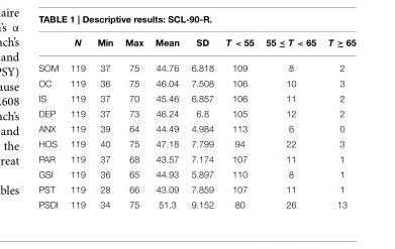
<table><thead><tr><td></td><td>N</td><td>Min</td><td>Max</td><td>Mean</td><td>SD</td><td>T &lt; 55</td><td>55 ≤ T &lt; 65</td><td>T ≥ 65</td></tr></thead><tbody><tr><td>SOM</td><td>119</td><td>37</td><td>75</td><td>44.76</td><td>6.818</td><td>109</td><td>8</td><td>2</td></tr><tr><td>OC</td><td>119</td><td>36</td><td>75</td><td>46.04</td><td>7.508</td><td>106</td><td>10</td><td>3</td></tr><tr><td>IS</td><td>119</td><td>37</td><td>70</td><td>45.46</td><td>6.857</td><td>106</td><td>11</td><td>2</td></tr><tr><td>DEP</td><td>119</td><td>37</td><td>73</td><td>46.24</td><td>6.8</td><td>105</td><td>12</td><td>2</td></tr><tr><td>ANX</td><td>119</td><td>39</td><td>64</td><td>44.49</td><td>4.984</td><td>113</td><td>6</td><td>0</td></tr><tr><td>HOS</td><td>119</td><td>40</td><td>75</td><td>47.18</td><td>7.799</td><td>94</td><td>22</td><td>3</td></tr><tr><td>PAR</td><td>119</td><td>37</td><td>68</td><td>43.57</td><td>7.174</td><td>107</td><td>11</td><td>1</td></tr><tr><td>GSI</td><td>119</td><td>36</td><td>65</td><td>44.93</td><td>5.897</td><td>110</td><td>8</td><td>1</td></tr><tr><td>PST</td><td>119</td><td>28</td><td>66</td><td>43.09</td><td>7.859</td><td>107</td><td>11</td><td>1</td></tr><tr><td>PSDI</td><td>119</td><td>34</td><td>75</td><td>51.3</td><td>9.152</td><td>80</td><td>26</td><td>13</td></tr></tbody></table>